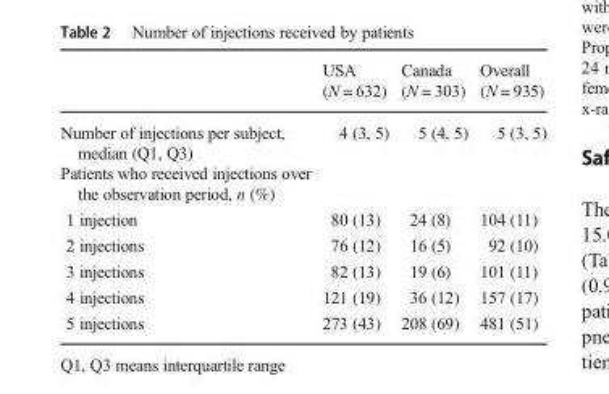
<table><thead><tr><td></td><td>USA (N = 632)</td><td>Canada (N = 303)</td><td>Overall (N = 935)</td></tr></thead><tbody><tr><td>Number of injections per subject, median (Q1, Q3)</td><td>4 (3, 5)</td><td>5 (4, 5)</td><td>5 (3, 5)</td></tr><tr><td colspan="4">Patients who received injections over the observation period, n (%)</td></tr><tr><td>1 injection</td><td>80 (13)</td><td>24 (8)</td><td>104 (11)</td></tr><tr><td>2 injections</td><td>76 (12)</td><td>16 (5)</td><td>92 (10)</td></tr><tr><td>3 injections</td><td>82 (13)</td><td>19 (6)</td><td>101 (11)</td></tr><tr><td>4 injections</td><td>121 (19)</td><td>36 (12)</td><td>157 (17)</td></tr><tr><td>5 injections</td><td>273 (43)</td><td>208 (69)</td><td>481 (51)</td></tr></tbody></table>